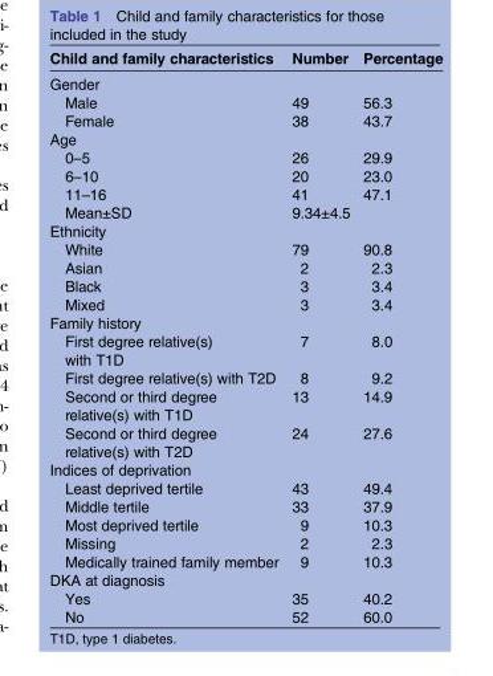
<table><thead><tr><td>Child and family characteristics</td><td>Number</td><td>Percentage</td></tr></thead><tbody><tr><td colspan="3">Gender</td></tr><tr><td>Male</td><td>49</td><td>56.3</td></tr><tr><td>Female</td><td>38</td><td>43.7</td></tr><tr><td colspan="3">Age</td></tr><tr><td>0–5</td><td>26</td><td>29.9</td></tr><tr><td>6–10</td><td>20</td><td>23.0</td></tr><tr><td>11–16</td><td>41</td><td>47.1</td></tr><tr><td>Mean±SD</td><td>9.34±4.5</td><td></td></tr><tr><td colspan="3">Ethnicity</td></tr><tr><td>White</td><td>79</td><td>90.8</td></tr><tr><td>Asian</td><td>2</td><td>2.3</td></tr><tr><td>Black</td><td>3</td><td>3.4</td></tr><tr><td>Mixed</td><td>3</td><td>3.4</td></tr><tr><td colspan="3">Family history</td></tr><tr><td>First degree relative(s) with T1D</td><td>7</td><td>8.0</td></tr><tr><td>First degree relative(s) with T2D</td><td>8</td><td>9.2</td></tr><tr><td>Second or third degree relative(s) with T1D</td><td>13</td><td>14.9</td></tr><tr><td>Second or third degree relative(s) with T2D</td><td>24</td><td>27.6</td></tr><tr><td colspan="3">Indices of deprivation</td></tr><tr><td>Least deprived tertile</td><td>43</td><td>49.4</td></tr><tr><td>Middle tertile</td><td>33</td><td>37.9</td></tr><tr><td>Most deprived tertile</td><td>9</td><td>10.3</td></tr><tr><td>Missing</td><td>2</td><td>2.3</td></tr><tr><td>Medically trained family member</td><td>9</td><td>10.3</td></tr><tr><td colspan="3">DKA at diagnosis</td></tr><tr><td>Yes</td><td>35</td><td>40.2</td></tr><tr><td>No</td><td>52</td><td>60.0</td></tr></tbody></table>